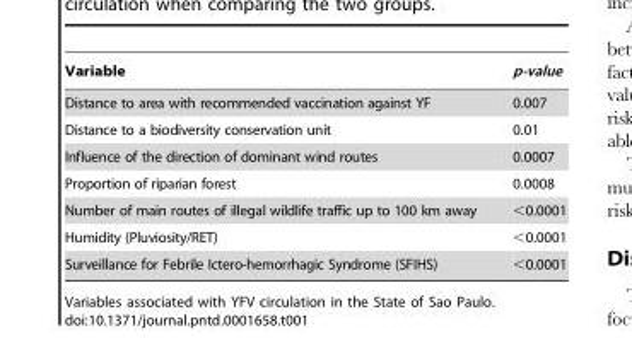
<table><thead><tr><td>Variable</td><td>p-value</td></tr></thead><tbody><tr><td>Distance to area with recommended vaccination against YF</td><td>0.007</td></tr><tr><td>Distance to a biodiversity conservation unit</td><td>0.01</td></tr><tr><td>Influence of the direction of dominant wind routes</td><td>0.0007</td></tr><tr><td>Proportion of riparian forest</td><td>0.0008</td></tr><tr><td>Number of main routes of illegal wildlife traffic up to 100 km away</td><td>&lt;0.0001</td></tr><tr><td>Humidity (Pluviosity/RET)</td><td>&lt;0.0001</td></tr><tr><td>Surveillance for Febrile Ictero-hemorrhagic Syndrome (SFIHS)</td><td>&lt;0.0001</td></tr></tbody></table>